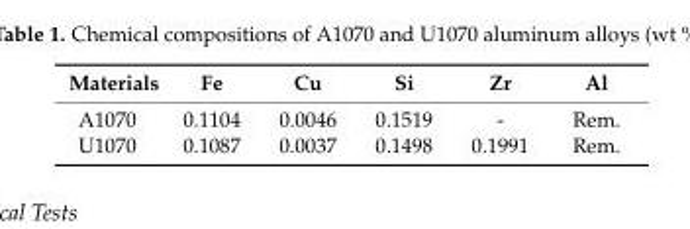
<table><thead><tr><td>Materials</td><td>Fe</td><td>Cu</td><td>Si</td><td>Zr</td><td>Al</td></tr></thead><tbody><tr><td>A1070</td><td>0.1104</td><td>0.0046</td><td>0.1519</td><td>-</td><td>Rem.</td></tr><tr><td>U1070</td><td>0.1087</td><td>0.0037</td><td>0.1498</td><td>0.1991</td><td>Rem.</td></tr></tbody></table>